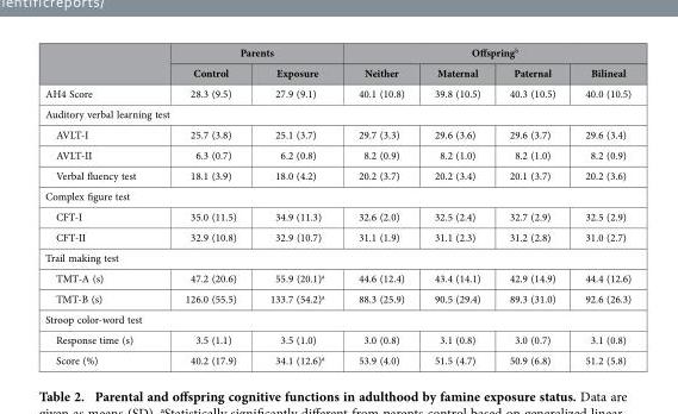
<table><thead><tr><td rowspan="2"></td><td colspan="2">Parents</td><td colspan="4">Offspring<sup>b</sup></td></tr><tr><td>Control</td><td>Exposure</td><td>Neither</td><td>Maternal</td><td>Paternal</td><td>Bilineal</td></tr></thead><tbody><tr><td>AH4 Score</td><td>28.3 (9.5)</td><td>27.9 (9.1)</td><td>40.1 (10.8)</td><td>39.8 (10.5)</td><td>40.3 (10.5)</td><td>40.0 (10.5)</td></tr><tr><td colspan="7">Auditory verbal learning test</td></tr><tr><td>AVLT-I</td><td>25.7 (3.8)</td><td>25.1 (3.7)</td><td>29.7 (3.3)</td><td>29.6 (3.6)</td><td>29.6 (3.7)</td><td>29.6 (3.4)</td></tr><tr><td>AVLT-II</td><td>6.3 (0.7)</td><td>6.2 (0.8)</td><td>8.2 (0.9)</td><td>8.2 (1.0)</td><td>8.2 (1.0)</td><td>8.2 (0.9)</td></tr><tr><td>Verbal fluency test</td><td>18.1 (3.9)</td><td>18.0 (4.2)</td><td>20.2 (3.7)</td><td>20.2 (3.4)</td><td>20.1 (3.7)</td><td>20.2 (3.6)</td></tr><tr><td colspan="7">Complex figure test</td></tr><tr><td>CFT-I</td><td>35.0 (11.5)</td><td>34.9 (11.3)</td><td>32.6 (2.0)</td><td>32.5 (2.4)</td><td>32.7 (2.9)</td><td>32.5 (2.9)</td></tr><tr><td>CFT-II</td><td>32.9 (10.8)</td><td>32.9 (10.7)</td><td>31.1 (1.9)</td><td>31.1 (2.3)</td><td>31.2 (2.8)</td><td>31.0 (2.7)</td></tr><tr><td colspan="7">Trail making test</td></tr><tr><td>TMT-A (s)</td><td>47.2 (20.6)</td><td>55.9 (20.1)<sup>a</sup></td><td>44.6 (12.4)</td><td>43.4 (14.1)</td><td>42.9 (14.9)</td><td>44.4 (12.6)</td></tr><tr><td>TMT-B (s)</td><td>126.0 (55.5)</td><td>133.7 (54.2)<sup>a</sup></td><td>88.3 (25.9)</td><td>90.5 (29.4)</td><td>89.3 (31.0)</td><td>92.6 (26.3)</td></tr><tr><td colspan="7">Stroop color-word test</td></tr><tr><td>Response time (s)</td><td>3.5 (1.1)</td><td>3.5 (1.0)</td><td>3.0 (0.8)</td><td>3.1 (0.8)</td><td>3.0 (0.7)</td><td>3.1 (0.8)</td></tr><tr><td>Score (%)</td><td>40.2 (17.9)</td><td>34.1 (12.6)<sup>a</sup></td><td>53.9 (4.0)</td><td>51.5 (4.7)</td><td>50.9 (6.8)</td><td>51.2 (5.8)</td></tr></tbody></table>